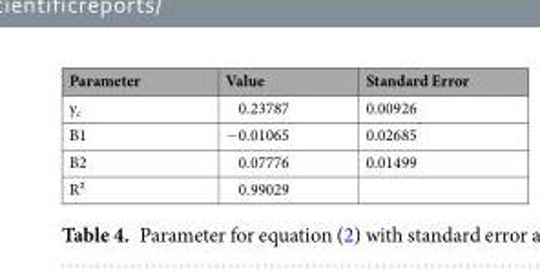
<table><thead><tr><td>Parameter</td><td>Value</td><td>Standard Error</td></tr></thead><tbody><tr><td>y<sub>c</sub></td><td>0.23787</td><td>0.00926</td></tr><tr><td>B1</td><td>−0.01065</td><td>0.02685</td></tr><tr><td>B2</td><td>0.07776</td><td>0.01499</td></tr><tr><td>R²</td><td>0.99029</td><td></td></tr></tbody></table>